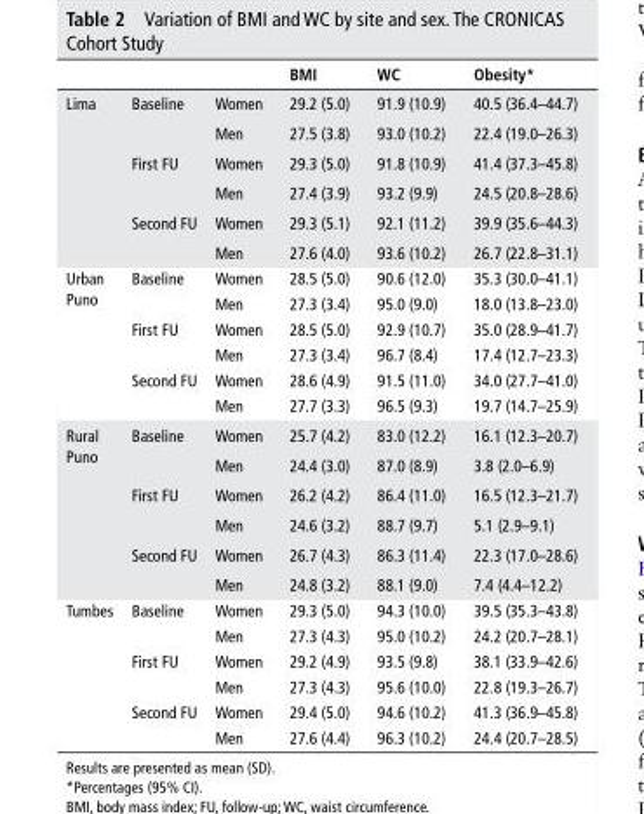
<table><thead><tr><td></td><td></td><td></td><td>bMI</td><td>WC</td><td>obesity*</td></tr></thead><tbody><tr><td rowspan="6">Lima</td><td rowspan="2">Baseline</td><td>Women</td><td>29.2 (5.0)</td><td>91.9 (10.9)</td><td>40.5 (36.4–44.7)</td></tr><tr><td>Men</td><td>27.5 (3.8)</td><td>93.0 (10.2)</td><td>22.4 (19.0–26.3)</td></tr><tr><td rowspan="2">First FU</td><td>Women</td><td>29.3 (5.0)</td><td>91.8 (10.9)</td><td>41.4 (37.3–45.8)</td></tr><tr><td>Men</td><td>27.4 (3.9)</td><td>93.2 (9.9)</td><td>24.5 (20.8–28.6)</td></tr><tr><td rowspan="2">Second FU</td><td>Women</td><td>29.3 (5.1)</td><td>92.1 (11.2)</td><td>39.9 (35.6–44.3)</td></tr><tr><td>Men</td><td>27.6 (4.0)</td><td>93.6 (10.2)</td><td>26.7 (22.8–31.1)</td></tr><tr><td rowspan="6">Urban Puno</td><td rowspan="2">Baseline</td><td>Women</td><td>28.5 (5.0)</td><td>90.6 (12.0)</td><td>35.3 (30.0–41.1)</td></tr><tr><td>Men</td><td>27.3 (3.4)</td><td>95.0 (9.0)</td><td>18.0 (13.8–23.0)</td></tr><tr><td rowspan="2">First FU</td><td>Women</td><td>28.5 (5.0)</td><td>92.9 (10.7)</td><td>35.0 (28.9–41.7)</td></tr><tr><td>Men</td><td>27.3 (3.4)</td><td>96.7 (8.4)</td><td>17.4 (12.7–23.3)</td></tr><tr><td rowspan="2">Second FU</td><td>Women</td><td>28.6 (4.9)</td><td>91.5 (11.0)</td><td>34.0 (27.7–41.0)</td></tr><tr><td>Men</td><td>27.7 (3.3)</td><td>96.5 (9.3)</td><td>19.7 (14.7–25.9)</td></tr><tr><td rowspan="6">Rural Puno</td><td rowspan="2">Baseline</td><td>Women</td><td>25.7 (4.2)</td><td>83.0 (12.2)</td><td>16.1 (12.3–20.7)</td></tr><tr><td>Men</td><td>24.4 (3.0)</td><td>87.0 (8.9)</td><td>3.8 (2.0–6.9)</td></tr><tr><td rowspan="2">First FU</td><td>Women</td><td>26.2 (4.2)</td><td>86.4 (11.0)</td><td>16.5 (12.3–21.7)</td></tr><tr><td>Men</td><td>24.6 (3.2)</td><td>88.7 (9.7)</td><td>5.1 (2.9–9.1)</td></tr><tr><td rowspan="2">Second FU</td><td>Women</td><td>26.7 (4.3)</td><td>86.3 (11.4)</td><td>22.3 (17.0–28.6)</td></tr><tr><td>Men</td><td>24.8 (3.2)</td><td>88.1 (9.0)</td><td>7.4 (4.4–12.2)</td></tr><tr><td rowspan="6">Tumbes</td><td rowspan="2">Baseline</td><td>Women</td><td>29.3 (5.0)</td><td>94.3 (10.0)</td><td>39.5 (35.3–43.8)</td></tr><tr><td>Men</td><td>27.3 (4.3)</td><td>95.0 (10.2)</td><td>24.2 (20.7–28.1)</td></tr><tr><td rowspan="2">First FU</td><td>Women</td><td>29.2 (4.9)</td><td>93.5 (9.8)</td><td>38.1 (33.9–42.6)</td></tr><tr><td>Men</td><td>27.3 (4.3)</td><td>95.6 (10.0)</td><td>22.8 (19.3–26.7)</td></tr><tr><td rowspan="2">Second FU</td><td>Women</td><td>29.4 (5.0)</td><td>94.6 (10.2)</td><td>41.3 (36.9–45.8)</td></tr><tr><td>Men</td><td>27.6 (4.4)</td><td>96.3 (10.2)</td><td>24.4 (20.7–28.5)</td></tr></tbody></table>